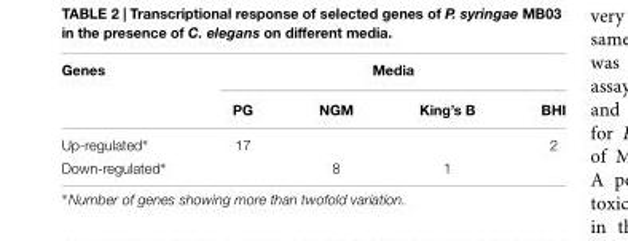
<table><thead><tr><td rowspan="2">Genes</td><td colspan="4">Media</td></tr><tr><td>PG</td><td>NGM</td><td>King’s B</td><td>BHI</td></tr></thead><tbody><tr><td>Up-regulated∗</td><td>17</td><td></td><td></td><td>2</td></tr><tr><td>Down-regulated∗</td><td></td><td>8</td><td>1</td><td></td></tr></tbody></table>